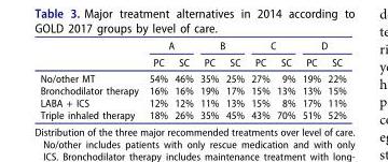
<table><thead><tr><td rowspan="2"></td><td colspan="2">A</td><td colspan="2">B</td><td colspan="2">C</td><td colspan="2">D</td></tr><tr><td>PC</td><td>SC</td><td>PC</td><td>SC</td><td>PC</td><td>SC</td><td>PC</td><td>SC</td></tr></thead><tbody><tr><td>No/other MT</td><td>54%</td><td>46%</td><td>35%</td><td>25%</td><td>27%</td><td>9%</td><td>19%</td><td>22%</td></tr><tr><td>Bronchodilator therapy</td><td>16%</td><td>16%</td><td>19%</td><td>17%</td><td>15%</td><td>13%</td><td>13%</td><td>15%</td></tr><tr><td>LABA + ICS</td><td>12%</td><td>12%</td><td>11%</td><td>13%</td><td>15%</td><td>8%</td><td>17%</td><td>11%</td></tr><tr><td>Triple inhaled therapy</td><td>18%</td><td>26%</td><td>35%</td><td>45%</td><td>43%</td><td>70%</td><td>51%</td><td>52%</td></tr></tbody></table>